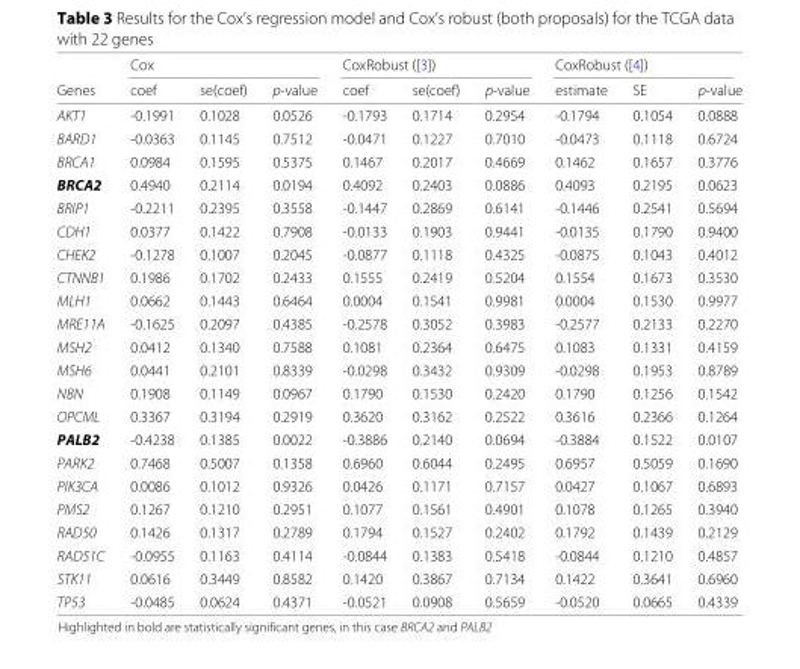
<table><thead><tr><td rowspan="2">Genes</td><td colspan="3">Cox</td><td colspan="3">CoxRobust ([3])</td><td colspan="3">CoxRobust ([4])</td></tr><tr><td>coef</td><td>se(coef)</td><td>p-value</td><td>coef</td><td>se(coef)</td><td>p-value</td><td>estimate</td><td>SE</td><td>p-value</td></tr></thead><tbody><tr><td>AKT1</td><td>-0.1991</td><td>0.1028</td><td>0.0526</td><td>-0.1793</td><td>0.1714</td><td>0.2954</td><td>-0.1794</td><td>0.1054</td><td>0.0888</td></tr><tr><td>BARD1</td><td>-0.0363</td><td>0.1145</td><td>0.7512</td><td>-0.0471</td><td>0.1227</td><td>0.7010</td><td>-0.0473</td><td>0.1118</td><td>0.6724</td></tr><tr><td>BRCA1</td><td>0.0984</td><td>0.1595</td><td>0.5375</td><td>0.1467</td><td>0.2017</td><td>0.4669</td><td>0.1462</td><td>0.1657</td><td>0.3776</td></tr><tr><td>BRCA2</td><td>0.4940</td><td>0.2114</td><td>0.0194</td><td>0.4092</td><td>0.2403</td><td>0.0886</td><td>0.4093</td><td>0.2195</td><td>0.0623</td></tr><tr><td>BRIP1</td><td>-0.2211</td><td>0.2395</td><td>0.3558</td><td>-0.1447</td><td>0.2869</td><td>0.6141</td><td>-0.1446</td><td>0.2541</td><td>0.5694</td></tr><tr><td>CDH1</td><td>0.0377</td><td>0.1422</td><td>0.7908</td><td>-0.0133</td><td>0.1903</td><td>0.9441</td><td>-0.0135</td><td>0.1790</td><td>0.9400</td></tr><tr><td>CHEK2</td><td>-0.1278</td><td>0.1007</td><td>0.2045</td><td>-0.0877</td><td>0.1118</td><td>0.4325</td><td>-0.0875</td><td>0.1043</td><td>0.4012</td></tr><tr><td>CTNNB1</td><td>0.1986</td><td>0.1702</td><td>0.2433</td><td>0.1555</td><td>0.2419</td><td>0.5204</td><td>0.1554</td><td>0.1673</td><td>0.3530</td></tr><tr><td>MLH1</td><td>0.0662</td><td>0.1443</td><td>0.6464</td><td>0.0004</td><td>0.1541</td><td>0.9981</td><td>0.0004</td><td>0.1530</td><td>0.9977</td></tr><tr><td>MRE11A</td><td>-0.1625</td><td>0.2097</td><td>0.4385</td><td>-0.2578</td><td>0.3052</td><td>0.3983</td><td>-0.2577</td><td>0.2133</td><td>0.2270</td></tr><tr><td>MSH2</td><td>0.0412</td><td>0.1340</td><td>0.7588</td><td>0.1081</td><td>0.2364</td><td>0.6475</td><td>0.1083</td><td>0.1331</td><td>0.4159</td></tr><tr><td>MSH6</td><td>0.0441</td><td>0.2101</td><td>0.8339</td><td>-0.0298</td><td>0.3432</td><td>0.9309</td><td>-0.0298</td><td>0.1953</td><td>0.8789</td></tr><tr><td>NBN</td><td>0.1908</td><td>0.1149</td><td>0.0967</td><td>0.1790</td><td>0.1530</td><td>0.2420</td><td>0.1790</td><td>0.1256</td><td>0.1542</td></tr><tr><td>OPCML</td><td>0.3367</td><td>0.3194</td><td>0.2919</td><td>0.3620</td><td>0.3162</td><td>0.2522</td><td>0.3616</td><td>0.2366</td><td>0.1264</td></tr><tr><td>PALB2</td><td>-0.4238</td><td>0.1385</td><td>0.0022</td><td>-0.3886</td><td>0.2140</td><td>0.0694</td><td>-0.3884</td><td>0.1522</td><td>0.0107</td></tr><tr><td>PARK2</td><td>0.7468</td><td>0.5007</td><td>0.1358</td><td>0.6960</td><td>0.6044</td><td>0.2495</td><td>0.6957</td><td>0.5059</td><td>0.1690</td></tr><tr><td>PIK3CA</td><td>0.0086</td><td>0.1012</td><td>0.9326</td><td>0.0426</td><td>0.1171</td><td>0.7157</td><td>0.0427</td><td>0.1067</td><td>0.6893</td></tr><tr><td>PMS2</td><td>0.1267</td><td>0.1210</td><td>0.2951</td><td>0.1077</td><td>0.1561</td><td>0.4901</td><td>0.1078</td><td>0.1265</td><td>0.3940</td></tr><tr><td>RAD50</td><td>0.1426</td><td>0.1317</td><td>0.2789</td><td>0.1794</td><td>0.1527</td><td>0.2402</td><td>0.1792</td><td>0.1439</td><td>0.2129</td></tr><tr><td>RAD51C</td><td>-0.0955</td><td>0.1163</td><td>0.4114</td><td>-0.0844</td><td>0.1383</td><td>0.5418</td><td>-0.0844</td><td>0.1210</td><td>0.4857</td></tr><tr><td>STK11</td><td>0.0616</td><td>0.3449</td><td>0.8582</td><td>0.1420</td><td>0.3867</td><td>0.7134</td><td>0.1422</td><td>0.3641</td><td>0.6960</td></tr><tr><td>TP53</td><td>-0.0485</td><td>0.0624</td><td>0.4371</td><td>-0.0521</td><td>0.0908</td><td>0.5659</td><td>-0.0520</td><td>0.0665</td><td>0.4339</td></tr></tbody></table>